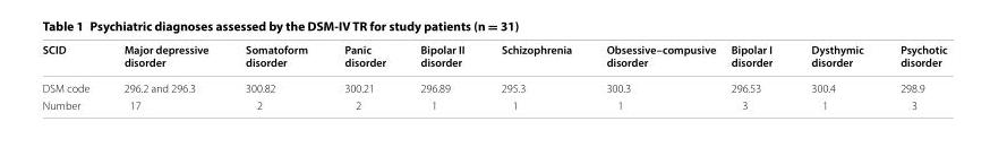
<table><thead><tr><td>SCID</td><td>Major depressive disorder</td><td>Somatoform disorder</td><td>Panic disorder</td><td>Bipolar II disorder</td><td>Schizophrenia</td><td>Obsessive–compusive disorder</td><td>Bipolar I disorder</td><td>Dysthymic disorder</td><td>Psychotic disorder</td></tr></thead><tbody><tr><td>DSM code</td><td>296.2 and 296.3</td><td>300.82</td><td>300.21</td><td>296.89</td><td>295.3</td><td>300.3</td><td>296.53</td><td>300.4</td><td>298.9</td></tr><tr><td>Number</td><td>17</td><td>2</td><td>2</td><td>1</td><td>1</td><td>1</td><td>3</td><td>1</td><td>3</td></tr></tbody></table>